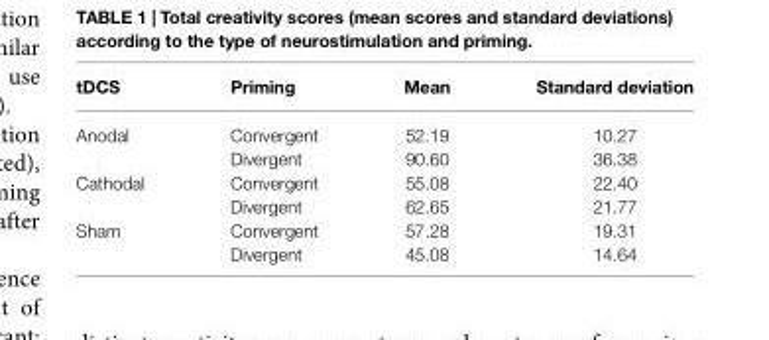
<table><thead><tr><td>tDCS</td><td>Priming</td><td>Mean</td><td>Standard deviation</td></tr></thead><tbody><tr><td rowspan="2">Anodal</td><td>Convergent</td><td>52.19</td><td>10.27</td></tr><tr><td>Divergent</td><td>90.60</td><td>36.38</td></tr><tr><td rowspan="2">Cathodal</td><td>Convergent</td><td>55.08</td><td>22.40</td></tr><tr><td>Divergent</td><td>62.65</td><td>21.77</td></tr><tr><td rowspan="2">Sham</td><td>Convergent</td><td>57.28</td><td>19.31</td></tr><tr><td>Divergent</td><td>45.08</td><td>14.64</td></tr></tbody></table>